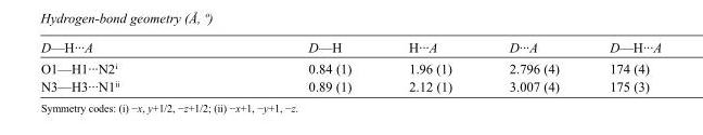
<table><tbody><tr><td>D—H···A</td><td>D—H</td><td>H···A</td><td>D···A</td><td>D—H···A</td></tr><tr><td>O1—H1···N2<sup>i</sup></td><td>0.84 (1)</td><td>1.96 (1)</td><td>2.796 (4)</td><td>174 (4)</td></tr><tr><td>N3—H3···N1<sup>ii</sup></td><td>0.89 (1)</td><td>2.12 (1)</td><td>3.007 (4)</td><td>175 (3)</td></tr></tbody></table>